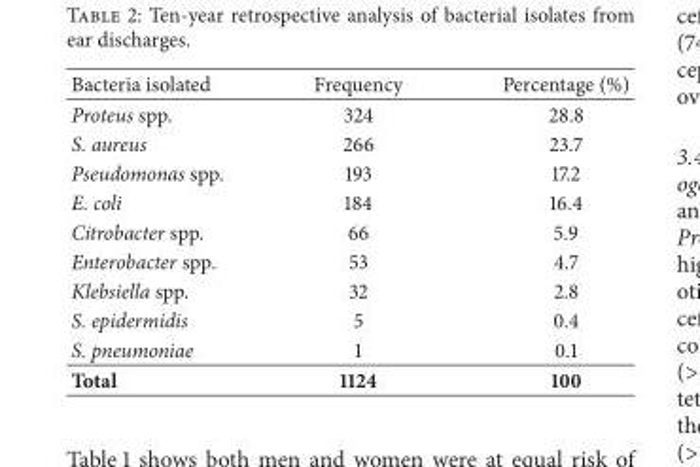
<table><thead><tr><td>Bacteria isolated</td><td>Frequency</td><td>Percentage (%)</td></tr></thead><tbody><tr><td>Proteus spp.</td><td>324</td><td>28.8</td></tr><tr><td>S. aureus</td><td>266</td><td>23.7</td></tr><tr><td>Pseudomonas spp.</td><td>193</td><td>17.2</td></tr><tr><td>E. coli</td><td>184</td><td>16.4</td></tr><tr><td>Citrobacter spp.</td><td>66</td><td>5.9</td></tr><tr><td>Enterobacter spp.</td><td>53</td><td>4.7</td></tr><tr><td>Klebsiella spp.</td><td>32</td><td>2.8</td></tr><tr><td>S. epidermidis</td><td>5</td><td>0.4</td></tr><tr><td>S. pneumoniae</td><td>1</td><td>0.1</td></tr><tr><td>Total</td><td>1124</td><td>100</td></tr></tbody></table>